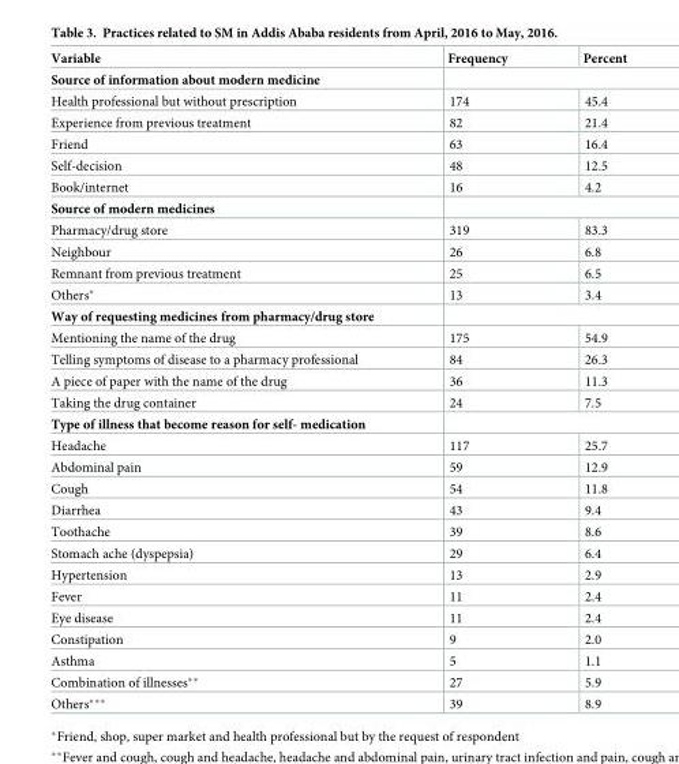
<table><thead><tr><td>Variable</td><td>Frequency</td><td>Percent</td></tr></thead><tbody><tr><td colspan="3">Source of information about modern medicine</td></tr><tr><td>Health professional but without prescription</td><td>174</td><td>45.4</td></tr><tr><td>Experience from previous treatment</td><td>82</td><td>21.4</td></tr><tr><td>Friend</td><td>63</td><td>16.4</td></tr><tr><td>Self-decision</td><td>48</td><td>12.5</td></tr><tr><td>Book/internet</td><td>16</td><td>4.2</td></tr><tr><td colspan="3">Source of modern medicines</td></tr><tr><td>Pharmacy/drug store</td><td>319</td><td>83.3</td></tr><tr><td>Neighbour</td><td>26</td><td>6.8</td></tr><tr><td>Remnant from previous treatment</td><td>25</td><td>6.5</td></tr><tr><td>Others*</td><td>13</td><td>3.4</td></tr><tr><td colspan="3">Way of requesting medicines from pharmacy/drug store</td></tr><tr><td>Mentioning the name of the drug</td><td>175</td><td>54.9</td></tr><tr><td>Telling symptoms of disease to a pharmacy professional</td><td>84</td><td>26.3</td></tr><tr><td>A piece of paper with the name of the drug</td><td>36</td><td>11.3</td></tr><tr><td>Taking the drug container</td><td>24</td><td>7.5</td></tr><tr><td colspan="3">Type of illness that become reason for self- medication</td></tr><tr><td>Headache</td><td>117</td><td>25.7</td></tr><tr><td>Abdominal pain</td><td>59</td><td>12.9</td></tr><tr><td>Cough</td><td>54</td><td>11.8</td></tr><tr><td>Diarrhea</td><td>43</td><td>9.4</td></tr><tr><td>Toothache</td><td>39</td><td>8.6</td></tr><tr><td>Stomach ache (dyspepsia)</td><td>29</td><td>6.4</td></tr><tr><td>Hypertension</td><td>13</td><td>2.9</td></tr><tr><td>Fever</td><td>11</td><td>2.4</td></tr><tr><td>Eye disease</td><td>11</td><td>2.4</td></tr><tr><td>Constipation</td><td>9</td><td>2.0</td></tr><tr><td>Asthma</td><td>5</td><td>1.1</td></tr><tr><td>Combination of illnesses**</td><td>27</td><td>5.9</td></tr><tr><td>Others***</td><td>39</td><td>8.9</td></tr></tbody></table>